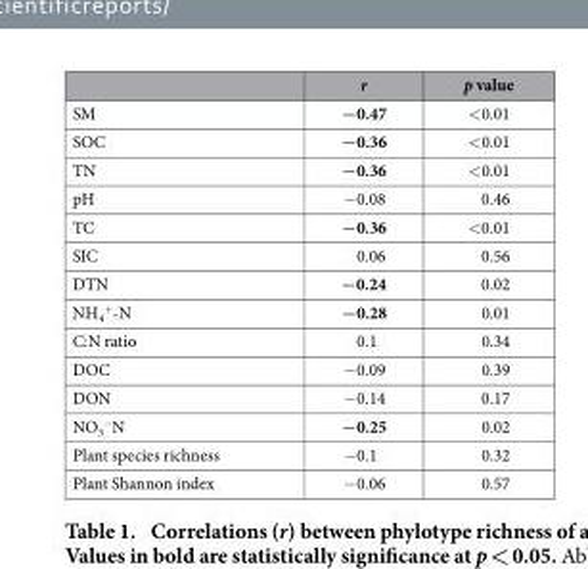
<table><thead><tr><td></td><td>r</td><td>p value</td></tr></thead><tbody><tr><td>SM</td><td>−0.47</td><td>&lt; 0.01</td></tr><tr><td>SOC</td><td>−0.36</td><td>&lt; 0.01</td></tr><tr><td>TN</td><td>−0.36</td><td>&lt; 0.01</td></tr><tr><td>pH</td><td>− 0.08</td><td>0.46</td></tr><tr><td>TC</td><td>−0.36</td><td>&lt; 0.01</td></tr><tr><td>SIC</td><td>0.06</td><td>0.56</td></tr><tr><td>DTN</td><td>−0.24</td><td>0.02</td></tr><tr><td>NH<sub>4</sub> <sup>+</sup>-N</td><td>−0.28</td><td>0.01</td></tr><tr><td>C:N ratio</td><td>0.1</td><td>0.34</td></tr><tr><td>DOC</td><td>− 0.09</td><td>0.39</td></tr><tr><td>DON</td><td>− 0.14</td><td>0.17</td></tr><tr><td>NO<sub>3</sub> <sup>−</sup>N</td><td>−0.25</td><td>0.02</td></tr><tr><td>Plant species richness</td><td>− 0.1</td><td>0.32</td></tr><tr><td>Plant Shannon index</td><td>− 0.06</td><td>0.57</td></tr></tbody></table>